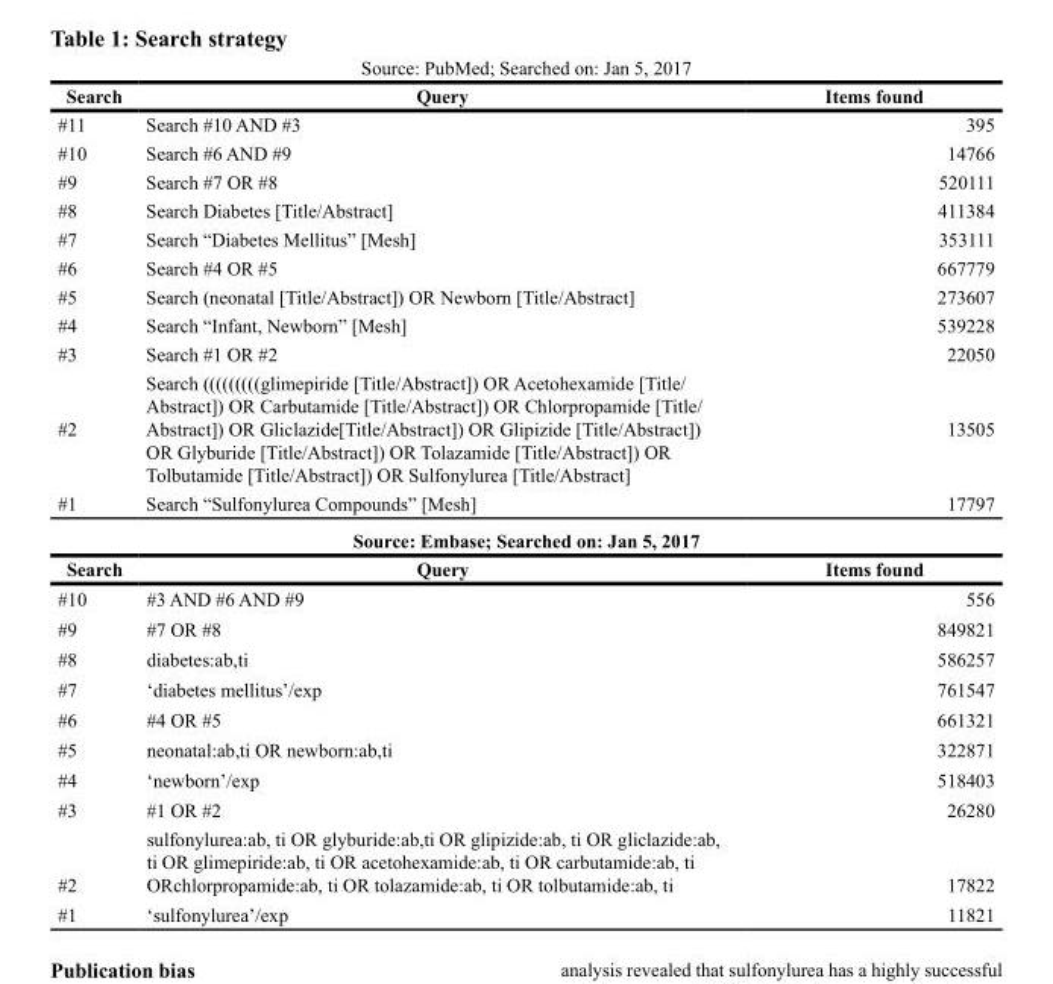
<table><tbody><tr><td colspan="3">Source: PubMed; Searched on: Jan 5, 2017</td></tr><tr><td>Search</td><td>Query</td><td>Items found</td></tr><tr><td>#11</td><td>Search #10 AND #3</td><td>395</td></tr><tr><td>#10</td><td>Search #6 AND #9</td><td>14766</td></tr><tr><td>#9</td><td>Search #7 OR #8</td><td>520111</td></tr><tr><td>#8</td><td>Search Diabetes [Title/Abstract]</td><td>411384</td></tr><tr><td>#7</td><td>Search “Diabetes Mellitus” [Mesh]</td><td>353111</td></tr><tr><td>#6</td><td>Search #4 OR #5</td><td>667779</td></tr><tr><td>#5</td><td>Search (neonatal [Title/Abstract]) OR Newborn [Title/Abstract]</td><td>273607</td></tr><tr><td>#4</td><td>Search “Infant, Newborn” [Mesh]</td><td>539228</td></tr><tr><td>#3</td><td>Search #1 OR #2</td><td>22050</td></tr><tr><td>#2</td><td>Search (((((((((glimepiride [Title/Abstract]) OR Acetohexamide [Title/ Abstract]) OR Carbutamide [Title/Abstract]) OR Chlorpropamide [Title/ Abstract]) OR Gliclazide[Title/Abstract]) OR Glipizide [Title/Abstract]) OR Glyburide [Title/Abstract]) OR Tolazamide [Title/Abstract]) OR Tolbutamide [Title/Abstract]) OR Sulfonylurea [Title/Abstract]</td><td>13505</td></tr><tr><td>#1</td><td>Search “Sulfonylurea Compounds” [Mesh]</td><td>17797</td></tr><tr><td colspan="3">Source: Embase; Searched on: Jan 5, 2017</td></tr><tr><td>Search</td><td>Query</td><td>Items found</td></tr><tr><td>#10</td><td>#3 AND #6 AND #9</td><td>556</td></tr><tr><td>#9</td><td>#7 OR #8</td><td>849821</td></tr><tr><td>#8</td><td>diabetes:ab,ti</td><td>586257</td></tr><tr><td>#7</td><td>‘diabetes mellitus’/exp</td><td>761547</td></tr><tr><td>#6</td><td>#4 OR #5</td><td>661321</td></tr><tr><td>#5</td><td>neonatal:ab,ti OR newborn:ab,ti</td><td>322871</td></tr><tr><td>#4</td><td>‘newborn’/exp</td><td>518403</td></tr><tr><td>#3</td><td>#1 OR #2</td><td>26280</td></tr><tr><td>#2</td><td>sulfonylurea:ab, ti OR glyburide:ab,ti OR glipizide:ab, ti OR gliclazide:ab, ti OR glimepiride:ab, ti OR acetohexamide:ab, ti OR carbutamide:ab, ti ORchlorpropamide:ab, ti OR tolazamide:ab, ti OR tolbutamide:ab, ti</td><td>17822</td></tr><tr><td>#1</td><td>‘sulfonylurea’/exp</td><td>11821</td></tr></tbody></table>